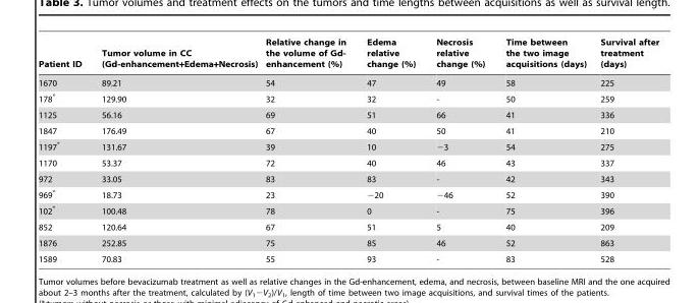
<table><thead><tr><td>Patient ID</td><td>Tumor volume in CC (Gd-enhancement+Edema+Necrosis)</td><td>Relative change in the volume of Gd- enhancement (%)</td><td>Edema relative change (%)</td><td>Necrosis relative change (%)</td><td>Time between the two image acquisitions (days)</td><td>Survival after treatment (days)</td></tr></thead><tbody><tr><td>1670</td><td>89.21</td><td>54</td><td>47</td><td>49</td><td>58</td><td>225</td></tr><tr><td>178*</td><td>129.90</td><td>32</td><td>32</td><td>-</td><td>50</td><td>259</td></tr><tr><td>1125</td><td>56.16</td><td>69</td><td>51</td><td>66</td><td>41</td><td>336</td></tr><tr><td>1847</td><td>176.49</td><td>67</td><td>40</td><td>50</td><td>41</td><td>210</td></tr><tr><td>1197*</td><td>131.67</td><td>39</td><td>10</td><td>−3</td><td>54</td><td>275</td></tr><tr><td>1170</td><td>53.37</td><td>72</td><td>40</td><td>46</td><td>43</td><td>337</td></tr><tr><td>972</td><td>33.05</td><td>83</td><td>83</td><td>-</td><td>42</td><td>343</td></tr><tr><td>969*</td><td>18.73</td><td>23</td><td>−20</td><td>−46</td><td>52</td><td>390</td></tr><tr><td>102*</td><td>100.48</td><td>78</td><td>0</td><td>-</td><td>75</td><td>396</td></tr><tr><td>852</td><td>120.64</td><td>67</td><td>51</td><td>5</td><td>40</td><td>209</td></tr><tr><td>1876</td><td>252.85</td><td>75</td><td>85</td><td>46</td><td>52</td><td>863</td></tr><tr><td>1589</td><td>70.83</td><td>55</td><td>93</td><td>-</td><td>83</td><td>528</td></tr></tbody></table>